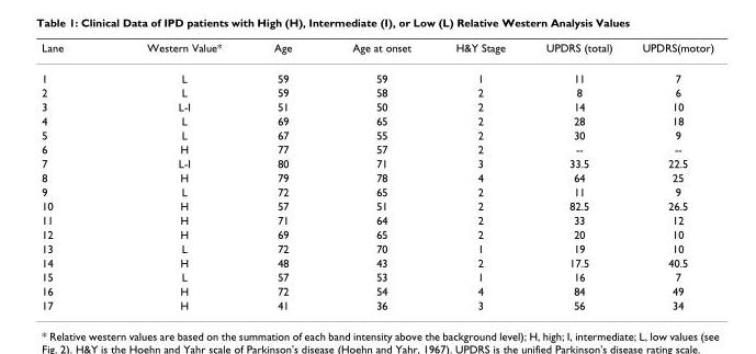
<table><thead><tr><td>Lane</td><td>Western Value*</td><td>Age</td><td>Age at onset</td><td>H&amp;Y Stage</td><td>UPDRS (total)</td><td>UPDRS(motor)</td></tr></thead><tbody><tr><td>1</td><td>L</td><td>59</td><td>59</td><td>1</td><td>11</td><td>7</td></tr><tr><td>2</td><td>L</td><td>59</td><td>58</td><td>2</td><td>8</td><td>6</td></tr><tr><td>3</td><td>L-I</td><td>51</td><td>50</td><td>2</td><td>14</td><td>10</td></tr><tr><td>4</td><td>L</td><td>69</td><td>65</td><td>2</td><td>28</td><td>18</td></tr><tr><td>5</td><td>L</td><td>67</td><td>55</td><td>2</td><td>30</td><td>9</td></tr><tr><td>6</td><td>H</td><td>77</td><td>57</td><td>2</td><td>--</td><td>--</td></tr><tr><td>7</td><td>L-I</td><td>80</td><td>71</td><td>3</td><td>33.5</td><td>22.5</td></tr><tr><td>8</td><td>H</td><td>79</td><td>78</td><td>4</td><td>64</td><td>25</td></tr><tr><td>9</td><td>L</td><td>72</td><td>65</td><td>2</td><td>11</td><td>9</td></tr><tr><td>10</td><td>H</td><td>57</td><td>51</td><td>2</td><td>82.5</td><td>26.5</td></tr><tr><td>11</td><td>H</td><td>71</td><td>64</td><td>2</td><td>33</td><td>12</td></tr><tr><td>12</td><td>H</td><td>69</td><td>65</td><td>2</td><td>20</td><td>10</td></tr><tr><td>13</td><td>L</td><td>72</td><td>70</td><td>1</td><td>19</td><td>10</td></tr><tr><td>14</td><td>H</td><td>48</td><td>43</td><td>2</td><td>17.5</td><td>40.5</td></tr><tr><td>15</td><td>L</td><td>57</td><td>53</td><td>1</td><td>16</td><td>7</td></tr><tr><td>16</td><td>H</td><td>72</td><td>54</td><td>4</td><td>84</td><td>49</td></tr><tr><td>17</td><td>H</td><td>41</td><td>36</td><td>3</td><td>56</td><td>34</td></tr></tbody></table>